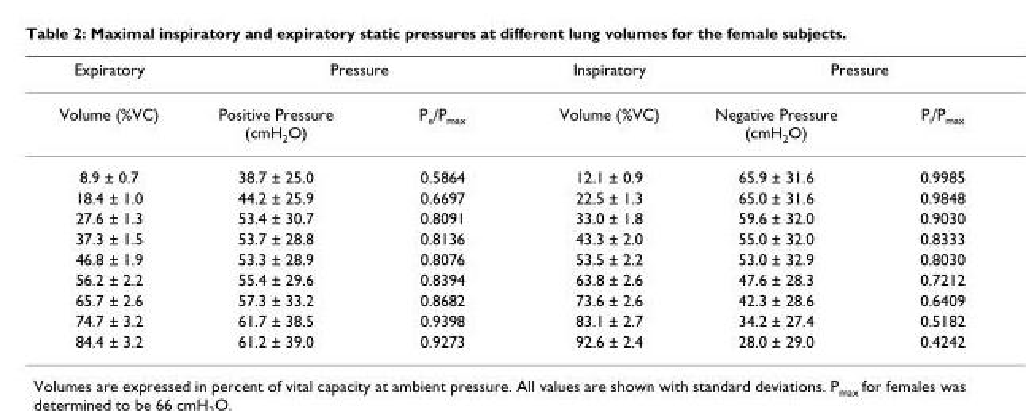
<table><thead><tr><td rowspan="2">Expiratory Volume (%VC)</td><td colspan="2">Pressure</td><td rowspan="2">Inspiratory Volume (%VC)</td><td colspan="2">Pressure</td></tr><tr><td>Positive Pressure (cmH2O)</td><td>Pe/Pmax</td><td>Negative Pressure (cmH2O)</td><td>Pi/Pmax</td></tr></thead><tbody><tr><td>8.9 ± 0.7</td><td>38.7 ± 25.0</td><td>0.5864</td><td>12.1 ± 0.9</td><td>65.9 ± 31.6</td><td>0.9985</td></tr><tr><td>18.4 ± 1.0</td><td>44.2 ± 25.9</td><td>0.6697</td><td>22.5 ± 1.3</td><td>65.0 ± 31.6</td><td>0.9848</td></tr><tr><td>27.6 ± 1.3</td><td>53.4 ± 30.7</td><td>0.8091</td><td>33.0 ± 1.8</td><td>59.6 ± 32.0</td><td>0.9030</td></tr><tr><td>37.3 ± 1.5</td><td>53.7 ± 28.8</td><td>0.8136</td><td>43.3 ± 2.0</td><td>55.0 ± 32.0</td><td>0.8333</td></tr><tr><td>46.8 ± 1.9</td><td>53.3 ± 28.9</td><td>0.8076</td><td>53.5 ± 2.2</td><td>53.0 ± 32.9</td><td>0.8030</td></tr><tr><td>56.2 ± 2.2</td><td>55.4 ± 29.6</td><td>0.8394</td><td>63.8 ± 2.6</td><td>47.6 ± 28.3</td><td>0.7212</td></tr><tr><td>65.7 ± 2.6</td><td>57.3 ± 33.2</td><td>0.8682</td><td>73.6 ± 2.6</td><td>42.3 ± 28.6</td><td>0.6409</td></tr><tr><td>74.7 ± 3.2</td><td>61.7 ± 38.5</td><td>0.9398</td><td>83.1 ± 2.7</td><td>34.2 ± 27.4</td><td>0.5182</td></tr><tr><td>84.4 ± 3.2</td><td>61.2 ± 39.0</td><td>0.9273</td><td>92.6 ± 2.4</td><td>28.0 ± 29.0</td><td>0.4242</td></tr></tbody></table>